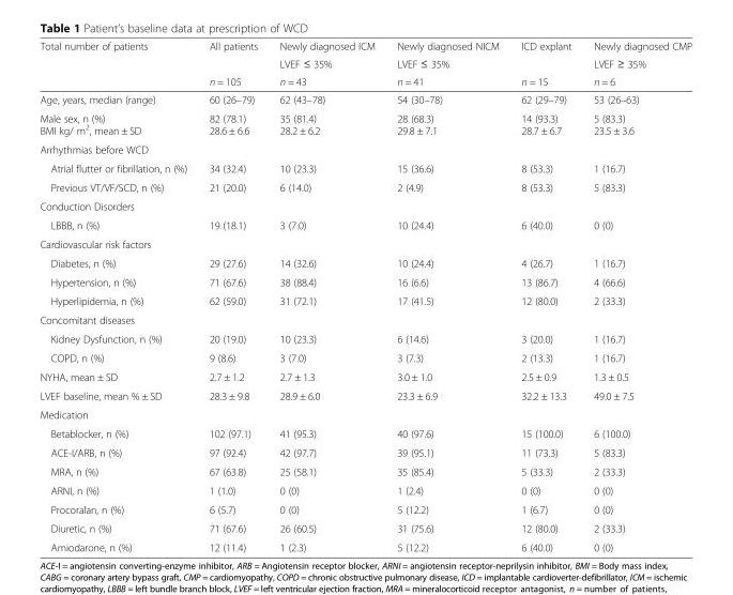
<table><thead><tr><td rowspan="3">Total number of patients</td><td rowspan="3">All patients n = 105</td><td rowspan="3">Newly diagnosed ICM LVEF ≤ 35% n = 43</td><td rowspan="3">Newly diagnosed NICM LVEF ≤ 35% n = 41</td><td rowspan="3">ICD explant n = 15</td><td rowspan="3">Newly diagnosed CMP LVEF ≥ 35% n = 6</td></tr><tr></tr><tr></tr></thead><tbody><tr><td>Age, years, median (range)</td><td>60 (26–79)</td><td>62 (43–78)</td><td>54 (30–78)</td><td>62 (29–79)</td><td>53 (26–63)</td></tr><tr><td>Male sex, n (%) BMI kg/ m<sup>2</sup>, mean ± SD</td><td>82 (78.1) 28.6 ± 6.6</td><td>35 (81.4) 28.2 ± 6.2</td><td>28 (68.3) 29.8 ± 7.1</td><td>14 (93.3) 28.7 ± 6.7</td><td>5 (83.3) 23.5 ± 3.6</td></tr><tr><td colspan="6">Arrhythmias before WCD</td></tr><tr><td>Atrial flutter or fibrillation, n (%)</td><td>34 (32.4)</td><td>10 (23.3)</td><td>15 (36.6)</td><td>8 (53.3)</td><td>1 (16.7)</td></tr><tr><td>Previous VT/VF/SCD, n (%)</td><td>21 (20.0)</td><td>6 (14.0)</td><td>2 (4.9)</td><td>8 (53.3)</td><td>5 (83.3)</td></tr><tr><td colspan="6">Conduction Disorders</td></tr><tr><td>LBBB, n (%)</td><td>19 (18.1)</td><td>3 (7.0)</td><td>10 (24.4)</td><td>6 (40.0)</td><td>0 (0)</td></tr><tr><td colspan="6">Cardiovascular risk factors</td></tr><tr><td>Diabetes, n (%)</td><td>29 (27.6)</td><td>14 (32.6)</td><td>10 (24.4)</td><td>4 (26.7)</td><td>1 (16.7)</td></tr><tr><td>Hypertension, n (%)</td><td>71 (67.6)</td><td>38 (88.4)</td><td>16 (6.6)</td><td>13 (86.7)</td><td>4 (66.6)</td></tr><tr><td>Hyperlipidemia, n (%)</td><td>62 (59.0)</td><td>31 (72.1)</td><td>17 (41.5)</td><td>12 (80.0)</td><td>2 (33.3)</td></tr><tr><td colspan="6">Concomitant diseases</td></tr><tr><td>Kidney Dysfunction, n (%)</td><td>20 (19.0)</td><td>10 (23.3)</td><td>6 (14.6)</td><td>3 (20.0)</td><td>1 (16.7)</td></tr><tr><td>COPD, n (%)</td><td>9 (8.6)</td><td>3 (7.0)</td><td>3 (7.3)</td><td>2 (13.3)</td><td>1 (16.7)</td></tr><tr><td>NYHA, mean ± SD</td><td>2.7 ± 1.2</td><td>2.7 ± 1.3</td><td>3.0 ± 1.0</td><td>2.5 ± 0.9</td><td>1.3 ± 0.5</td></tr><tr><td>LVEF baseline, mean % ± SD</td><td>28.3 ± 9.8</td><td>28.9 ± 6.0</td><td>23.3 ± 6.9</td><td>32.2 ± 13.3</td><td>49.0 ± 7.5</td></tr><tr><td colspan="6">Medication</td></tr><tr><td>Betablocker, n (%)</td><td>102 (97.1)</td><td>41 (95.3)</td><td>40 (97.6)</td><td>15 (100.0)</td><td>6 (100.0)</td></tr><tr><td>ACE-I/ARB, n (%)</td><td>97 (92.4)</td><td>42 (97.7)</td><td>39 (95.1)</td><td>11 (73.3)</td><td>5 (83.3)</td></tr><tr><td>MRA, n (%)</td><td>67 (63.8)</td><td>25 (58.1)</td><td>35 (85.4)</td><td>5 (33.3)</td><td>2 (33.3)</td></tr><tr><td>ARNI, n (%)</td><td>1 (1.0)</td><td>0 (0)</td><td>1 (2.4)</td><td>0 (0)</td><td>0 (0)</td></tr><tr><td>Procoralan, n (%)</td><td>6 (5.7)</td><td>0 (0)</td><td>5 (12.2)</td><td>1 (6.7)</td><td>0 (0)</td></tr><tr><td>Diuretic, n (%)</td><td>71 (67.6)</td><td>26 (60.5)</td><td>31 (75.6)</td><td>12 (80.0)</td><td>2 (33.3)</td></tr><tr><td>Amiodarone, n (%)</td><td>12 (11.4)</td><td>1 (2.3)</td><td>5 (12.2)</td><td>6 (40.0)</td><td>0 (0)</td></tr></tbody></table>